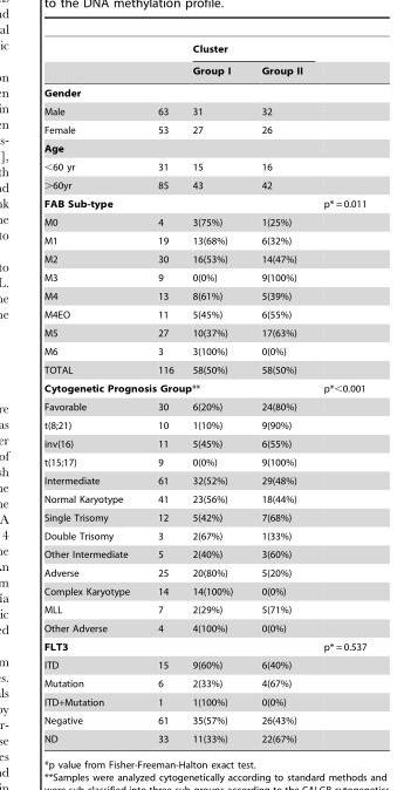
<table><thead><tr><td rowspan="2"></td><td rowspan="2"></td><td colspan="2">Cluster</td><td rowspan="2"></td></tr><tr><td>Group I</td><td>Group II</td></tr></thead><tbody><tr><td colspan="5">Gender</td></tr><tr><td>Male</td><td>63</td><td>31</td><td>32</td><td></td></tr><tr><td>Female</td><td>53</td><td>27</td><td>26</td><td></td></tr><tr><td colspan="5">Age</td></tr><tr><td>&lt;60 yr</td><td>31</td><td>15</td><td>16</td><td></td></tr><tr><td>&gt;60yr</td><td>85</td><td>43</td><td>42</td><td></td></tr><tr><td colspan="4">FAB Sub-type</td><td>p* = 0.011</td></tr><tr><td>M0</td><td>4</td><td>3(75%)</td><td>1(25%)</td><td></td></tr><tr><td>M1</td><td>19</td><td>13(68%)</td><td>6(32%)</td><td></td></tr><tr><td>M2</td><td>30</td><td>16(53%)</td><td>14(47%)</td><td></td></tr><tr><td>M3</td><td>9</td><td>0(0%)</td><td>9(100%)</td><td></td></tr><tr><td>M4</td><td>13</td><td>8(61%)</td><td>5(39%)</td><td></td></tr><tr><td>M4EO</td><td>11</td><td>5(45%)</td><td>6(55%)</td><td></td></tr><tr><td>M5</td><td>27</td><td>10(37%)</td><td>17(63%)</td><td></td></tr><tr><td>M6</td><td>3</td><td>3(100%)</td><td>0(0%)</td><td></td></tr><tr><td>TOTAL</td><td>116</td><td>58(50%)</td><td>58(50%)</td><td></td></tr><tr><td colspan="4">Cytogenetic Prognosis Group**</td><td>p*&lt;0.001</td></tr><tr><td>Favorable</td><td>30</td><td>6(20%)</td><td>24(80%)</td><td></td></tr><tr><td>t(8;21)</td><td>10</td><td>1(10%)</td><td>9(90%)</td><td></td></tr><tr><td>inv(16)</td><td>11</td><td>5(45%)</td><td>6(55%)</td><td></td></tr><tr><td>t(15;17)</td><td>9</td><td>0(0%)</td><td>9(100%)</td><td></td></tr><tr><td>Intermediate</td><td>61</td><td>32(52%)</td><td>29(48%)</td><td></td></tr><tr><td>Normal Karyotype</td><td>41</td><td>23(56%)</td><td>18(44%)</td><td></td></tr><tr><td>Single Trisomy</td><td>12</td><td>5(42%)</td><td>7(68%)</td><td></td></tr><tr><td>Double Trisomy</td><td>3</td><td>2(67%)</td><td>1(33%)</td><td></td></tr><tr><td>Other Intermediate</td><td>5</td><td>2(40%)</td><td>3(60%)</td><td></td></tr><tr><td>Adverse</td><td>25</td><td>20(80%)</td><td>5(20%)</td><td></td></tr><tr><td>Complex Karyotype</td><td>14</td><td>14(100%)</td><td>0(0%)</td><td></td></tr><tr><td>MLL</td><td>7</td><td>2(29%)</td><td>5(71%)</td><td></td></tr><tr><td>Other Adverse</td><td>4</td><td>4(100%)</td><td>0(0%)</td><td></td></tr><tr><td colspan="4">FLT3</td><td>p* = 0.537</td></tr><tr><td>ITD</td><td>15</td><td>9(60%)</td><td>6(40%)</td><td></td></tr><tr><td>Mutation</td><td>6</td><td>2(33%)</td><td>4(67%)</td><td></td></tr><tr><td>ITD+Mutation</td><td>1</td><td>1(100%)</td><td>0(0%)</td><td></td></tr><tr><td>Negative</td><td>61</td><td>35(57%)</td><td>26(43%)</td><td></td></tr><tr><td>ND</td><td>33</td><td>11(33%)</td><td>22(67%)</td><td></td></tr></tbody></table>